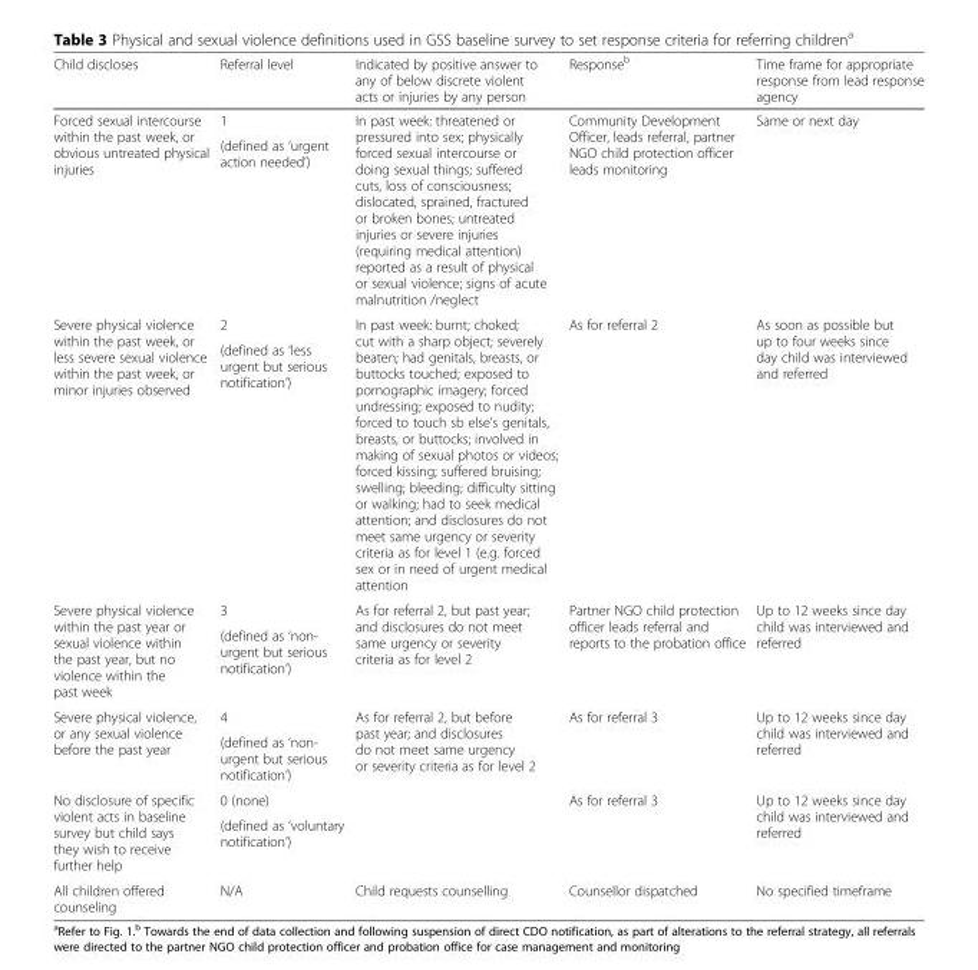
<table><thead><tr><td>Child discloses</td><td>Referral level</td><td>Indicated by positive answer to any of below discrete violent acts or injuries by any person</td><td>Response<sup>b</sup></td><td>Time frame for appropriate response from lead response agency</td></tr></thead><tbody><tr><td rowspan="2">Forced sexual intercourse within the past week, or obvious untreated physical injuries</td><td>1</td><td rowspan="2">In past week: threatened or pressured into sex; physically forced sexual intercourse or doing sexual things; suffered cuts, loss of consciousness; dislocated, sprained, fractured or broken bones; untreated injuries or severe injuries (requiring medical attention) reported as a result of physical or sexual violence; signs of acute malnutrition /neglect</td><td rowspan="2">Community Development Officer, leads referral, partner NGO child protection officer leads monitoring</td><td rowspan="2">Same or next day</td></tr><tr><td>(defined as ‘urgent action needed’)</td></tr><tr><td rowspan="2">Severe physical violence within the past week, or less severe sexual violence within the past week, or minor injuries observed</td><td>2</td><td rowspan="2">In past week: burnt; choked; cut with a sharp object; severely beaten; had genitals, breasts, or buttocks touched; exposed to pornographic imagery; forced undressing; exposed to nudity; forced to touch sb else’s genitals, breasts, or buttocks; involved in making of sexual photos or videos; forced kissing; suffered bruising; swelling; bleeding; difficulty sitting or walking; had to seek medical attention; and disclosures do not meet same urgency or severity criteria as for level 1 (e.g. forced sex or in need of urgent medical attention</td><td rowspan="2">As for referral 2</td><td rowspan="2">As soon as possible but up to four weeks since day child was interviewed and referred</td></tr><tr><td>(defined as ‘less urgent but serious notification’)</td></tr><tr><td rowspan="2">Severe physical violence within the past year or sexual violence within the past year, but no violence within the past week</td><td>3</td><td rowspan="2">As for referral 2, but past year; and disclosures do not meet same urgency or severity criteria as for level 2</td><td rowspan="2">Partner NGO child protection officer leads referral and reports to the probation office</td><td rowspan="2">Up to 12 weeks since day child was interviewed and referred</td></tr><tr><td>(defined as ‘non- urgent but serious notification’)</td></tr><tr><td rowspan="2">Severe physical violence, or any sexual violence before the past year</td><td>4</td><td rowspan="2">As for referral 2, but before past year; and disclosures do not meet same urgency or severity criteria as for level 2</td><td rowspan="2">As for referral 3</td><td rowspan="2">Up to 12 weeks since day child was interviewed and referred</td></tr><tr><td>(defined as ‘non- urgent but serious notification’)</td></tr><tr><td rowspan="2">No disclosure of specific violent acts in baseline survey but child says they wish to receive further help</td><td>0 (none)</td><td rowspan="2"></td><td rowspan="2">As for referral 3</td><td rowspan="2">Up to 12 weeks since day child was interviewed and referred</td></tr><tr><td>(defined as ‘voluntary notification’)</td></tr><tr><td>All children offered counseling</td><td>N/A</td><td>Child requests counselling</td><td>Counsellor dispatched</td><td>No specified timeframe</td></tr></tbody></table>